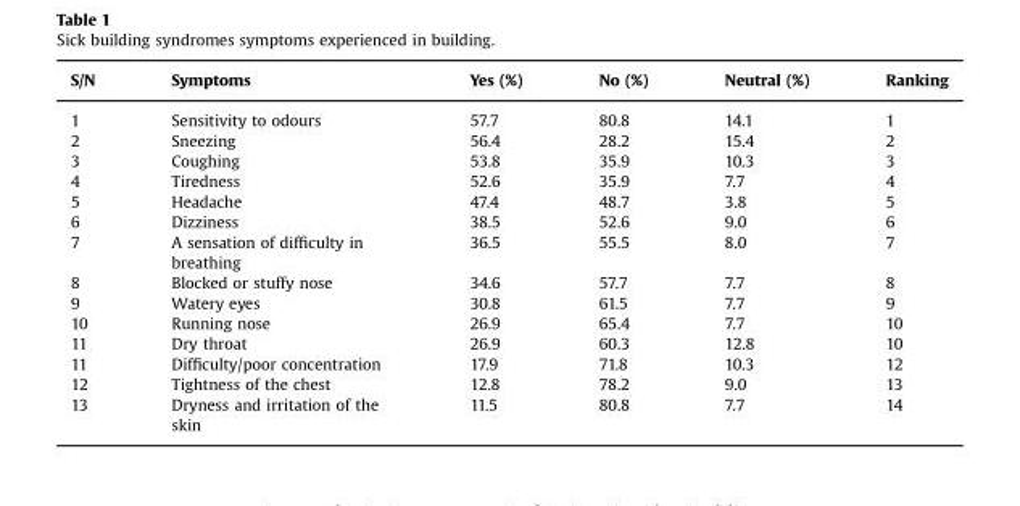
<table><thead><tr><td>S/N</td><td>Symptoms</td><td>Yes (%)</td><td>No (%)</td><td>Neutral (%)</td><td>Ranking</td></tr></thead><tbody><tr><td>1</td><td>Sensitivity to odours</td><td>57.7</td><td>80.8</td><td>14.1</td><td>1</td></tr><tr><td>2</td><td>Sneezing</td><td>56.4</td><td>28.2</td><td>15.4</td><td>2</td></tr><tr><td>3</td><td>Coughing</td><td>53.8</td><td>35.9</td><td>10.3</td><td>3</td></tr><tr><td>4</td><td>Tiredness</td><td>52.6</td><td>35.9</td><td>7.7</td><td>4</td></tr><tr><td>5</td><td>Headache</td><td>47.4</td><td>48.7</td><td>3.8</td><td>5</td></tr><tr><td>6</td><td>Dizziness</td><td>38.5</td><td>52.6</td><td>9.0</td><td>6</td></tr><tr><td>7</td><td>A sensation of difficulty in breathing</td><td>36.5</td><td>55.5</td><td>8.0</td><td>7</td></tr><tr><td>8</td><td>Blocked or stuffy nose</td><td>34.6</td><td>57.7</td><td>7.7</td><td>8</td></tr><tr><td>9</td><td>Watery eyes</td><td>30.8</td><td>61.5</td><td>7.7</td><td>9</td></tr><tr><td>10</td><td>Running nose</td><td>26.9</td><td>65.4</td><td>7.7</td><td>10</td></tr><tr><td>11</td><td>Dry throat</td><td>26.9</td><td>60.3</td><td>12.8</td><td>10</td></tr><tr><td>11</td><td>Difficulty/poor concentration</td><td>17.9</td><td>71.8</td><td>10.3</td><td>12</td></tr><tr><td>12</td><td>Tightness of the chest</td><td>12.8</td><td>78.2</td><td>9.0</td><td>13</td></tr><tr><td>13</td><td>Dryness and irritation of the skin</td><td>11.5</td><td>80.8</td><td>7.7</td><td>14</td></tr></tbody></table>